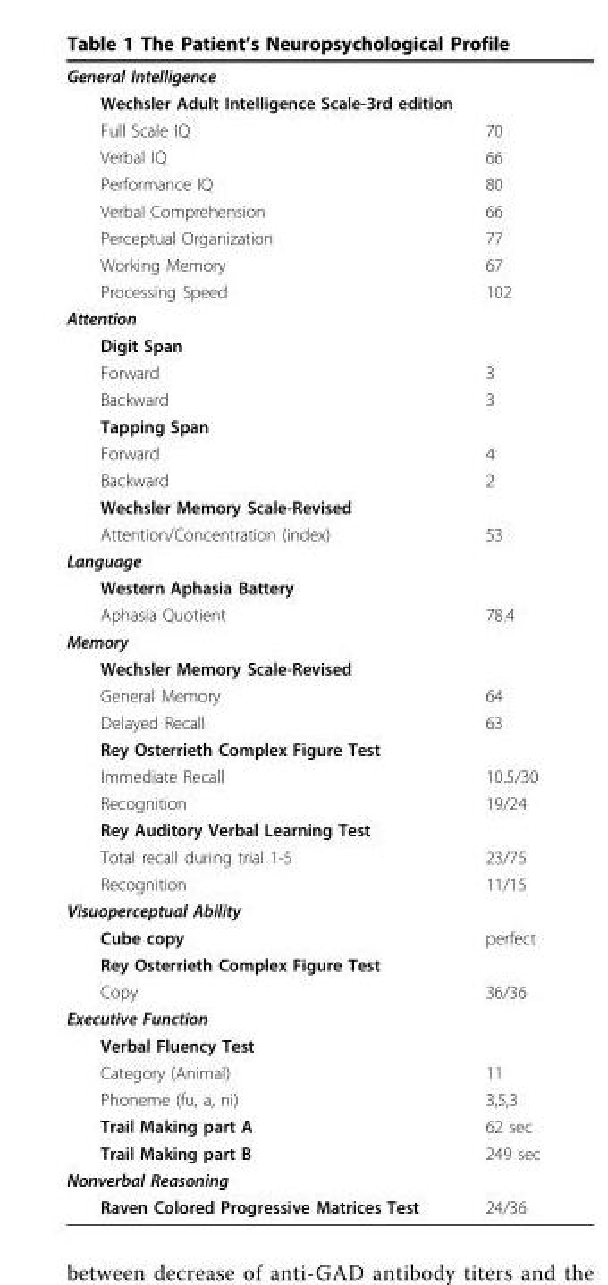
<table><tbody><tr><td colspan="2">General Intelligence</td></tr><tr><td colspan="2">Wechsler Adult Intelligence Scale-3rd edition</td></tr><tr><td>Full Scale IQ</td><td>70</td></tr><tr><td>Verbal IQ</td><td>66</td></tr><tr><td>Performance IQ</td><td>80</td></tr><tr><td>Verbal Comprehension</td><td>66</td></tr><tr><td>Perceptual Organization</td><td>77</td></tr><tr><td>Working Memory</td><td>67</td></tr><tr><td>Processing Speed</td><td>102</td></tr><tr><td colspan="2">Attention</td></tr><tr><td colspan="2">Digit Span</td></tr><tr><td>Forward</td><td>3</td></tr><tr><td>Backward</td><td>3</td></tr><tr><td colspan="2">Tapping Span</td></tr><tr><td>Forward</td><td>4</td></tr><tr><td>Backward</td><td>2</td></tr><tr><td colspan="2">Wechsler Memory Scale-Revised</td></tr><tr><td>Attention/Concentration (index)</td><td>53</td></tr><tr><td colspan="2">Language</td></tr><tr><td colspan="2">Western Aphasia Battery</td></tr><tr><td>Aphasia Quotient</td><td>78.4</td></tr><tr><td colspan="2">Memory</td></tr><tr><td colspan="2">Wechsler Memory Scale-Revised</td></tr><tr><td>General Memory</td><td>64</td></tr><tr><td>Delayed Recall</td><td>63</td></tr><tr><td colspan="2">Rey Osterrieth Complex Figure Test</td></tr><tr><td>Immediate Recall</td><td>10.5/30</td></tr><tr><td>Recognition</td><td>19/24</td></tr><tr><td colspan="2">Rey Auditory Verbal Learning Test</td></tr><tr><td>Total recall during trial 1-5</td><td>23/75</td></tr><tr><td>Recognition</td><td>11/15</td></tr><tr><td colspan="2">Visuoperceptual Ability</td></tr><tr><td>Cube copy</td><td>perfect</td></tr><tr><td colspan="2">Rey Osterrieth Complex Figure Test</td></tr><tr><td>Copy</td><td>36/36</td></tr><tr><td colspan="2">Executive Function</td></tr><tr><td colspan="2">Verbal Fluency Test</td></tr><tr><td>Category (Animal)</td><td>11</td></tr><tr><td>Phoneme (fu, a, ni)</td><td>3,5,3</td></tr><tr><td>Trail Making part A</td><td>62 sec</td></tr><tr><td>Trail Making part B</td><td>249 sec</td></tr><tr><td colspan="2">Nonverbal Reasoning</td></tr><tr><td>Raven Colored Progressive Matrices Test</td><td>24/36</td></tr></tbody></table>